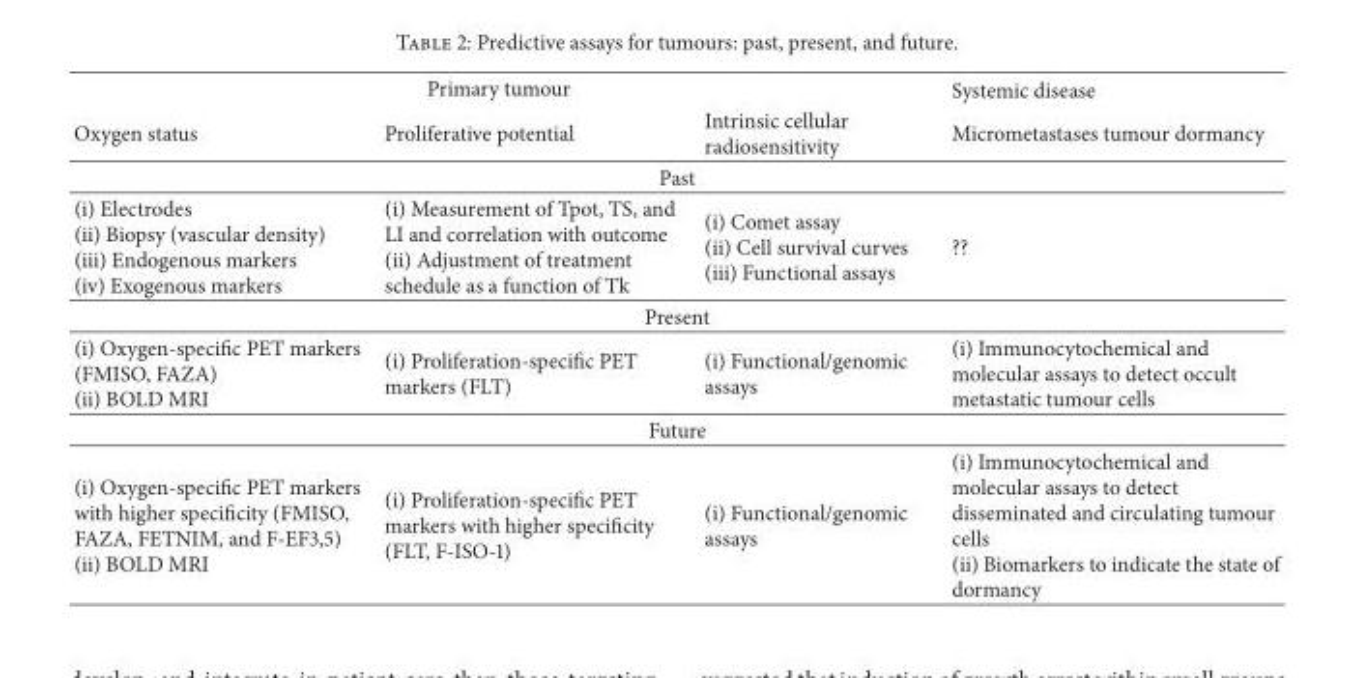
<table><thead><tr><td colspan="3">Primary tumour</td><td rowspan="2">Systemic disease Micrometastases tumour dormancy</td></tr><tr><td>Oxygen status</td><td>Proliferative potential</td><td>Intrinsic cellular radiosensitivity</td></tr></thead><tbody><tr><td colspan="4">Past</td></tr><tr><td>(i) Electrodes (ii) Biopsy (vascular density) (iii) Endogenous markers (iv) Exogenous markers</td><td>(i) Measurement of Tpot, TS, and LI and correlation with outcome (ii) Adjustment of treatment schedule as a function of Tk</td><td>(i) Comet assay (ii) Cell survival curves (iii) Functional assays</td><td>??</td></tr><tr><td colspan="4">Present</td></tr><tr><td>(i) Oxygen-specific PET markers (FMISO, FAZA) (ii) BOLD MRI</td><td>(i) Proliferation-specific PET markers (FLT)</td><td>(i) Functional/genomic assays</td><td>(i) Immunocytochemical and molecular assays to detect occult metastatic tumour cells</td></tr><tr><td colspan="4">Future</td></tr><tr><td>(i) Oxygen-specific PET markers with higher specificity (FMISO, FAZA, FETNIM, and F-EF3,5) (ii) BOLD MRI</td><td>(i) Proliferation-specific PET markers with higher specificity (FLT, F-ISO-1)</td><td>(i) Functional/genomic assays</td><td>(i) Immunocytochemical and molecular assays to detect disseminated and circulating tumour cells (ii) Biomarkers to indicate the state of dormancy</td></tr></tbody></table>